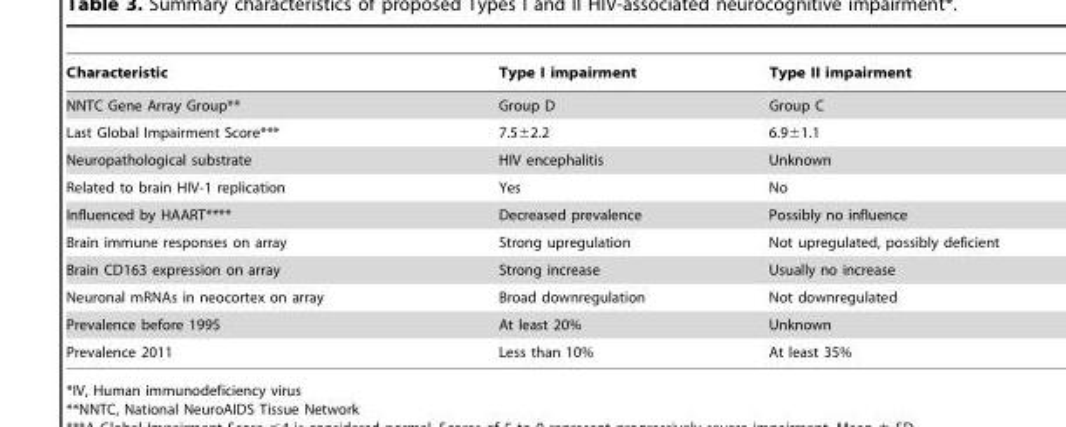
<table><thead><tr><td>Characteristic</td><td>Type I impairment</td><td>Type II impairment</td></tr></thead><tbody><tr><td>NNTC Gene Array Group**</td><td>Group D</td><td>Group C</td></tr><tr><td>Last Global Impairment Score***</td><td>7.5±2.2</td><td>6.9±1.1</td></tr><tr><td>Neuropathological substrate</td><td>HIV encephalitis</td><td>Unknown</td></tr><tr><td>Related to brain HIV-1 replication</td><td>Yes</td><td>No</td></tr><tr><td>Influenced by HAART****</td><td>Decreased prevalence</td><td>Possibly no influence</td></tr><tr><td>Brain immune responses on array</td><td>Strong upregulation</td><td>Not upregulated, possibly deficient</td></tr><tr><td>Brain CD163 expression on array</td><td>Strong increase</td><td>Usually no increase</td></tr><tr><td>Neuronal mRNAs in neocortex on array</td><td>Broad downregulation</td><td>Not downregulated</td></tr><tr><td>Prevalence before 1995</td><td>At least 20%</td><td>Unknown</td></tr><tr><td>Prevalence 2011</td><td>Less than 10%</td><td>At least 35%</td></tr></tbody></table>